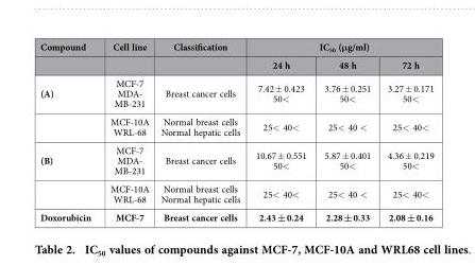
<table><thead><tr><td rowspan="2">Compound</td><td rowspan="2">Cell line</td><td rowspan="2">Classification</td><td colspan="3">IC<sub>50</sub> (μg/ml)</td></tr><tr><td>24 h</td><td>48 h</td><td>72 h</td></tr></thead><tbody><tr><td rowspan="2">(A)</td><td>MCF-7 MDA- MB-231</td><td>Breast cancer cells</td><td>7.42 ± 0.423 50&lt;</td><td>3.76 ± 0.251 50&lt;</td><td>3.27 ± 0.171 50&lt;</td></tr><tr><td>MCF-10A WRL-68</td><td>Normal breast cells Normal hepatic cells</td><td>25&lt; 40&lt;</td><td>25&lt; 40 &lt;</td><td>25&lt; 40&lt;</td></tr><tr><td rowspan="2">(B)</td><td>MCF-7 MDA- MB-231</td><td>Breast cancer cells</td><td>10.67 ± 0.551 50&lt;</td><td>5.87 ± 0.401 50&lt;</td><td>4.36 ± 0.219 50&lt;</td></tr><tr><td>MCF-10A WRL-68</td><td>Normal breast cells Normal hepatic cells</td><td>25&lt; 40&lt;</td><td>25&lt; 40 &lt;</td><td>25&lt; 40&lt;</td></tr><tr><td>Doxorubicin</td><td>MCF-7</td><td>Breast cancer cells</td><td>2.43 ± 0.24</td><td>2.28 ± 0.33</td><td>2.08 ± 0.16</td></tr></tbody></table>